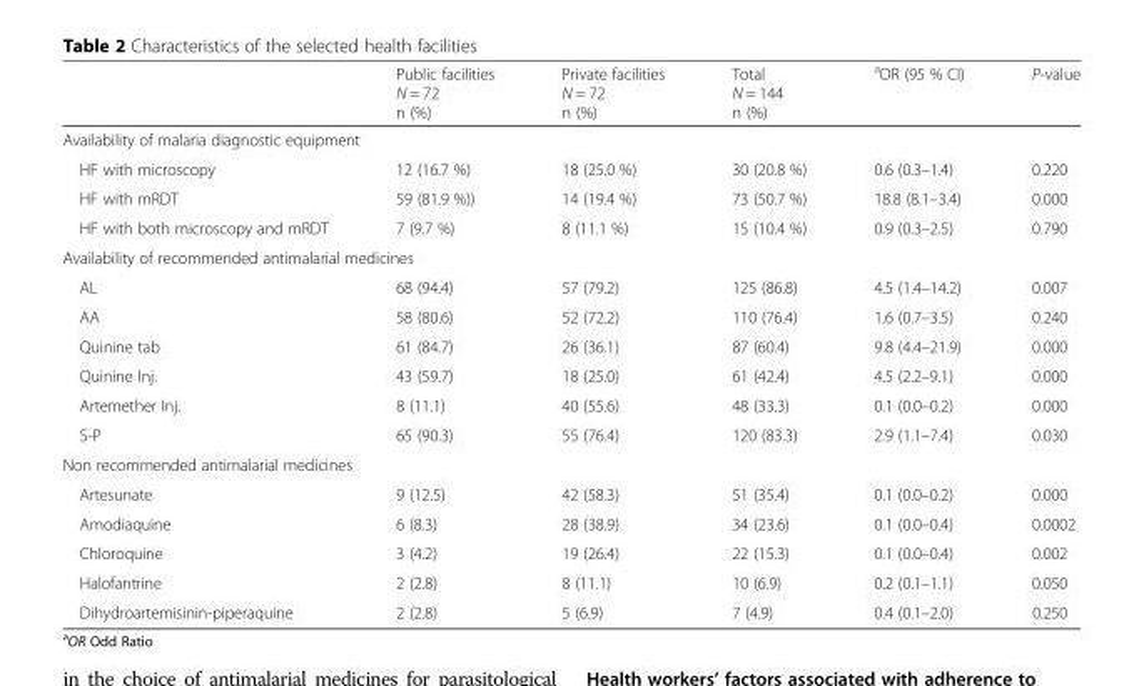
<table><thead><tr><td></td><td>Public facilities N = 72 n (%)</td><td>Private facilities N = 72 n (%)</td><td>Total N = 144 n (%)</td><td><sup>a</sup>OR (95 % CI)</td><td>P-value</td></tr></thead><tbody><tr><td colspan="6">Availability of malaria diagnostic equipment</td></tr><tr><td>HF with microscopy</td><td>12 (16.7 %)</td><td>18 (25.0 %)</td><td>30 (20.8 %)</td><td>0.6 (0.3–1.4)</td><td>0.220</td></tr><tr><td>HF with mRDT</td><td>59 (81.9 %))</td><td>14 (19.4 %)</td><td>73 (50.7 %)</td><td>18.8 (8.1–3.4)</td><td>0.000</td></tr><tr><td>HF with both microscopy and mRDT</td><td>7 (9.7 %)</td><td>8 (11.1 %)</td><td>15 (10.4 %)</td><td>0.9 (0.3–2.5)</td><td>0.790</td></tr><tr><td colspan="6">Availability of recommended antimalarial medicines</td></tr><tr><td>AL</td><td>68 (94.4)</td><td>57 (79.2)</td><td>125 (86.8)</td><td>4.5 (1.4–14.2)</td><td>0.007</td></tr><tr><td>AA</td><td>58 (80.6)</td><td>52 (72.2)</td><td>110 (76.4)</td><td>1.6 (0.7–3.5)</td><td>0.240</td></tr><tr><td>Quinine tab</td><td>61 (84.7)</td><td>26 (36.1)</td><td>87 (60.4)</td><td>9.8 (4.4–21.9)</td><td>0.000</td></tr><tr><td>Quinine Inj.</td><td>43 (59.7)</td><td>18 (25.0)</td><td>61 (42.4)</td><td>4.5 (2.2–9.1)</td><td>0.000</td></tr><tr><td>Artemether Inj.</td><td>8 (11.1)</td><td>40 (55.6)</td><td>48 (33.3)</td><td>0.1 (0.0–0.2)</td><td>0.000</td></tr><tr><td>S-P</td><td>65 (90.3)</td><td>55 (76.4)</td><td>120 (83.3)</td><td>2.9 (1.1–7.4)</td><td>0.030</td></tr><tr><td colspan="6">Non recommended antimalarial medicines</td></tr><tr><td>Artesunate</td><td>9 (12.5)</td><td>42 (58.3)</td><td>51 (35.4)</td><td>0.1 (0.0–0.2)</td><td>0.000</td></tr><tr><td>Amodiaquine</td><td>6 (8.3)</td><td>28 (38.9)</td><td>34 (23.6)</td><td>0.1 (0.0–0.4)</td><td>0.0002</td></tr><tr><td>Chloroquine</td><td>3 (4.2)</td><td>19 (26.4)</td><td>22 (15.3)</td><td>0.1 (0.0–0.4)</td><td>0.002</td></tr><tr><td>Halofantrine</td><td>2 (2.8)</td><td>8 (11.1)</td><td>10 (6.9)</td><td>0.2 (0.1–1.1)</td><td>0.050</td></tr><tr><td>Dihydroartemisinin-piperaquine</td><td>2 (2.8)</td><td>5 (6.9)</td><td>7 (4.9)</td><td>0.4 (0.1–2.0)</td><td>0.250</td></tr></tbody></table>